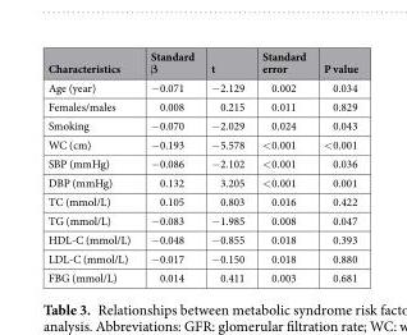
<table><thead><tr><td>Characteristics</td><td>Standard β</td><td>t</td><td>Standard error</td><td>P value</td></tr></thead><tbody><tr><td>Age (year)</td><td>−0.071</td><td>−2.129</td><td>0.002</td><td>0.034</td></tr><tr><td>Females/males</td><td>0.008</td><td>0.215</td><td>0.011</td><td>0.829</td></tr><tr><td>Smoking</td><td>−0.070</td><td>−2.029</td><td>0.024</td><td>0.043</td></tr><tr><td>WC (cm)</td><td>−0.193</td><td>−5.578</td><td>&lt;0.001</td><td>&lt;0.001</td></tr><tr><td>SBP (mmHg)</td><td>−0.086</td><td>−2.102</td><td>&lt;0.001</td><td>0.036</td></tr><tr><td>DBP (mmHg)</td><td>0.132</td><td>3.205</td><td>&lt;0.001</td><td>0.001</td></tr><tr><td>TC (mmol/L)</td><td>0.105</td><td>0.803</td><td>0.016</td><td>0.422</td></tr><tr><td>TG (mmol/L)</td><td>−0.083</td><td>−1.985</td><td>0.008</td><td>0.047</td></tr><tr><td>HDL-C (mmol/L)</td><td>−0.048</td><td>−0.855</td><td>0.018</td><td>0.393</td></tr><tr><td>LDL-C (mmol/L)</td><td>−0.017</td><td>−0.150</td><td>0.018</td><td>0.880</td></tr><tr><td>FBG (mmol/L)</td><td>0.014</td><td>0.411</td><td>0.003</td><td>0.681</td></tr></tbody></table>